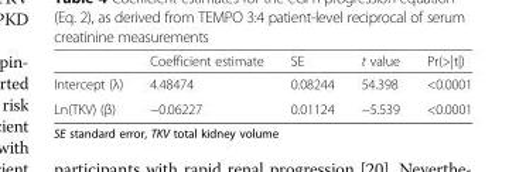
<table><thead><tr><td></td><td>Coefficient estimate</td><td>SE</td><td>t value</td><td>Pr(&gt;|t|)</td></tr></thead><tbody><tr><td>Intercept (λ)</td><td>4.48474</td><td>0.08244</td><td>54.398</td><td>&lt;0.0001</td></tr><tr><td>Ln(TKV) (β)</td><td>−0.06227</td><td>0.01124</td><td>−5.539</td><td>&lt;0.0001</td></tr></tbody></table>